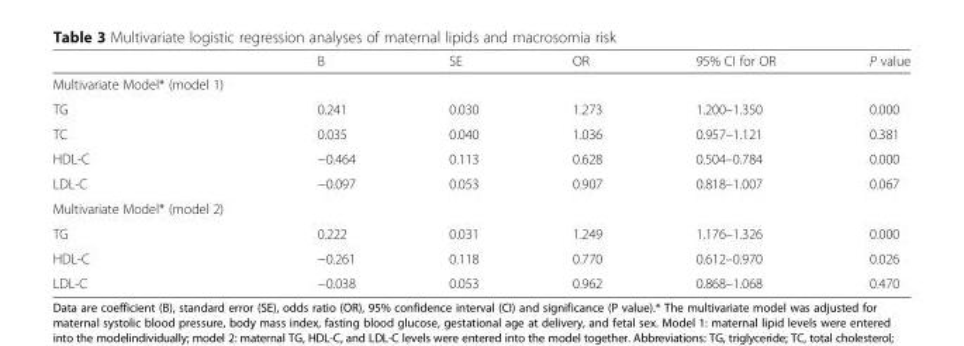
<table><thead><tr><td></td><td>B</td><td>SE</td><td>OR</td><td>95% CI for OR</td><td>P value</td></tr></thead><tbody><tr><td colspan="6">Multivariate Model* (model 1)</td></tr><tr><td>TG</td><td>0.241</td><td>0.030</td><td>1.273</td><td>1.200–1.350</td><td>0.000</td></tr><tr><td>TC</td><td>0.035</td><td>0.040</td><td>1.036</td><td>0.957–1.121</td><td>0.381</td></tr><tr><td>HDL-C</td><td>−0.464</td><td>0.113</td><td>0.628</td><td>0.504–0.784</td><td>0.000</td></tr><tr><td>LDL-C</td><td>−0.097</td><td>0.053</td><td>0.907</td><td>0.818–1.007</td><td>0.067</td></tr><tr><td colspan="6">Multivariate Model* (model 2)</td></tr><tr><td>TG</td><td>0.222</td><td>0.031</td><td>1.249</td><td>1.176–1.326</td><td>0.000</td></tr><tr><td>HDL-C</td><td>−0.261</td><td>0.118</td><td>0.770</td><td>0.612–0.970</td><td>0.026</td></tr><tr><td>LDL-C</td><td>−0.038</td><td>0.053</td><td>0.962</td><td>0.868–1.068</td><td>0.470</td></tr></tbody></table>